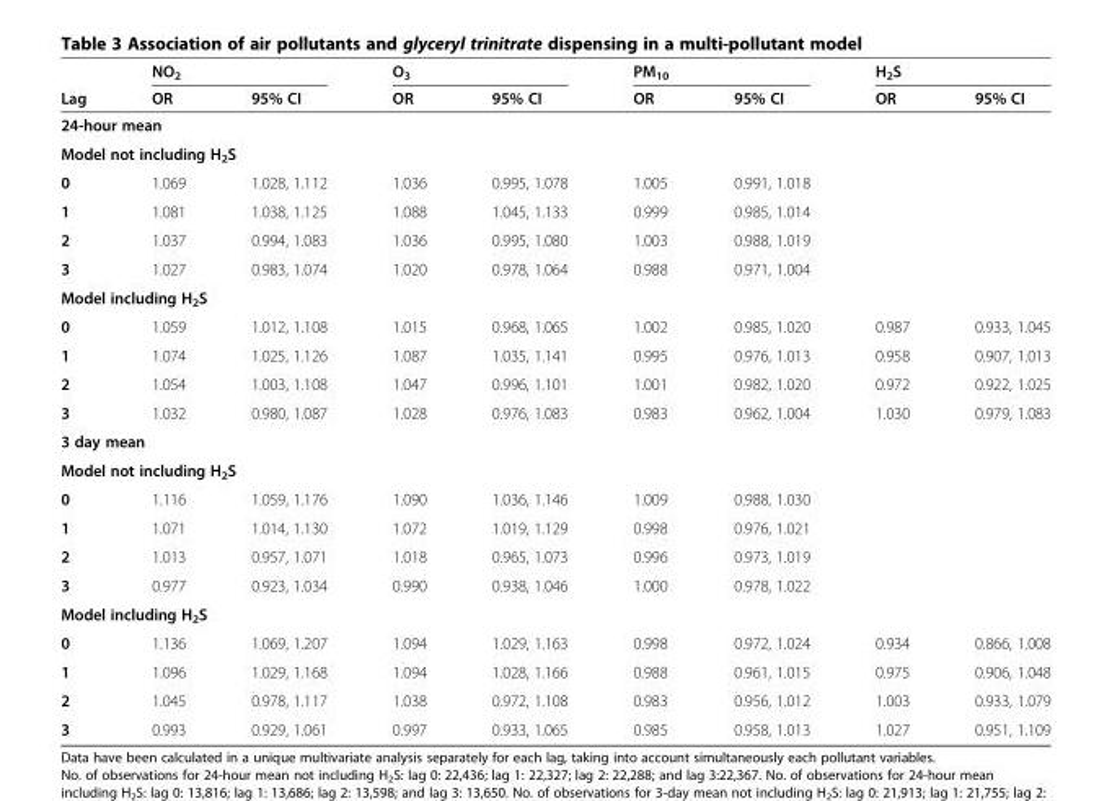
<table><thead><tr><td rowspan="2">Lag</td><td rowspan="2">NO<sub>2</sub> OR</td><td rowspan="2">95% CI</td><td rowspan="2">O<sub>3</sub> OR</td><td rowspan="2">95% CI</td><td rowspan="2">PM<sub>10</sub> OR</td><td rowspan="2">95% CI</td><td rowspan="2">H<sub>2</sub>S OR</td><td rowspan="2">95% CI</td></tr><tr></tr></thead><tbody><tr><td colspan="9">24-hour mean</td></tr><tr><td colspan="9">Model not including H<sub>2</sub>S</td></tr><tr><td>0</td><td>1.069</td><td>1.028, 1.112</td><td>1.036</td><td>0.995, 1.078</td><td>1.005</td><td>0.991, 1.018</td><td></td><td></td></tr><tr><td>1</td><td>1.081</td><td>1.038, 1.125</td><td>1.088</td><td>1.045, 1.133</td><td>0.999</td><td>0.985, 1.014</td><td></td><td></td></tr><tr><td>2</td><td>1.037</td><td>0.994, 1.083</td><td>1.036</td><td>0.995, 1.080</td><td>1.003</td><td>0.988, 1.019</td><td></td><td></td></tr><tr><td>3</td><td>1.027</td><td>0.983, 1.074</td><td>1.020</td><td>0.978, 1.064</td><td>0.988</td><td>0.971, 1.004</td><td></td><td></td></tr><tr><td colspan="9">Model including H<sub>2</sub>S</td></tr><tr><td>0</td><td>1.059</td><td>1.012, 1.108</td><td>1.015</td><td>0.968, 1.065</td><td>1.002</td><td>0.985, 1.020</td><td>0.987</td><td>0.933, 1.045</td></tr><tr><td>1</td><td>1.074</td><td>1.025, 1.126</td><td>1.087</td><td>1.035, 1.141</td><td>0.995</td><td>0.976, 1.013</td><td>0.958</td><td>0.907, 1.013</td></tr><tr><td>2</td><td>1.054</td><td>1.003, 1.108</td><td>1.047</td><td>0.996, 1.101</td><td>1.001</td><td>0.982, 1.020</td><td>0.972</td><td>0.922, 1.025</td></tr><tr><td>3</td><td>1.032</td><td>0.980, 1.087</td><td>1.028</td><td>0.976, 1.083</td><td>0.983</td><td>0.962, 1.004</td><td>1.030</td><td>0.979, 1.083</td></tr><tr><td colspan="9">3 day mean</td></tr><tr><td colspan="9">Model not including H<sub>2</sub>S</td></tr><tr><td>0</td><td>1.116</td><td>1.059, 1.176</td><td>1.090</td><td>1.036, 1.146</td><td>1.009</td><td>0.988, 1.030</td><td></td><td></td></tr><tr><td>1</td><td>1.071</td><td>1.014, 1.130</td><td>1.072</td><td>1.019, 1.129</td><td>0.998</td><td>0.976, 1.021</td><td></td><td></td></tr><tr><td>2</td><td>1.013</td><td>0.957, 1.071</td><td>1.018</td><td>0.965, 1.073</td><td>0.996</td><td>0.973, 1.019</td><td></td><td></td></tr><tr><td>3</td><td>0.977</td><td>0.923, 1.034</td><td>0.990</td><td>0.938, 1.046</td><td>1.000</td><td>0.978, 1.022</td><td></td><td></td></tr><tr><td colspan="9">Model including H<sub>2</sub>S</td></tr><tr><td>0</td><td>1.136</td><td>1.069, 1.207</td><td>1.094</td><td>1.029, 1.163</td><td>0.998</td><td>0.972, 1.024</td><td>0.934</td><td>0.866, 1.008</td></tr><tr><td>1</td><td>1.096</td><td>1.029, 1.168</td><td>1.094</td><td>1.028, 1.166</td><td>0.988</td><td>0.961, 1.015</td><td>0.975</td><td>0.906, 1.048</td></tr><tr><td>2</td><td>1.045</td><td>0.978, 1.117</td><td>1.038</td><td>0.972, 1.108</td><td>0.983</td><td>0.956, 1.012</td><td>1.003</td><td>0.933, 1.079</td></tr><tr><td>3</td><td>0.993</td><td>0.929, 1.061</td><td>0.997</td><td>0.933, 1.065</td><td>0.985</td><td>0.958, 1.013</td><td>1.027</td><td>0.951, 1.109</td></tr></tbody></table>